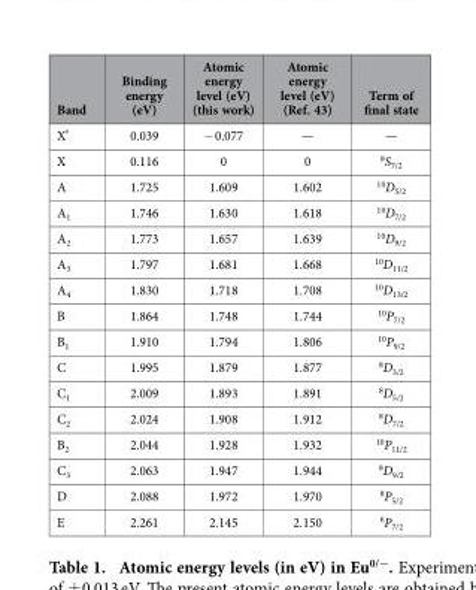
<table><thead><tr><td>Band</td><td>Binding energy (eV)</td><td>Atomic energy level (eV) (this work)</td><td>Atomic energy level (eV) (Ref. 43)</td><td>Term of final state</td></tr></thead><tbody><tr><td>X&#x27;</td><td>0.039</td><td>− 0.077</td><td>—</td><td>—</td></tr><tr><td>X</td><td>0.116</td><td>0</td><td>0</td><td><sup>8</sup>S<sub>7/2</sub></td></tr><tr><td>A</td><td>1.725</td><td>1.609</td><td>1.602</td><td><sup>10</sup>D<sub>5/2</sub></td></tr><tr><td>A<sub>1</sub></td><td>1.746</td><td>1.630</td><td>1.618</td><td><sup>10</sup>D<sub>7/2</sub></td></tr><tr><td>A<sub>2</sub></td><td>1.773</td><td>1.657</td><td>1.639</td><td><sup>10</sup>D<sub>9/2</sub></td></tr><tr><td>A<sub>3</sub></td><td>1.797</td><td>1.681</td><td>1.668</td><td><sup>10</sup>D<sub>11/2</sub></td></tr><tr><td>A<sub>4</sub></td><td>1.830</td><td>1.718</td><td>1.708</td><td><sup>10</sup>D<sub>13/2</sub></td></tr><tr><td>B</td><td>1.864</td><td>1.748</td><td>1.744</td><td><sup>10</sup>P<sub>7/2</sub></td></tr><tr><td>B<sub>1</sub></td><td>1.910</td><td>1.794</td><td>1.806</td><td><sup>10</sup>P<sub>9/2</sub></td></tr><tr><td>C</td><td>1.995</td><td>1.879</td><td>1.877</td><td><sup>8</sup>D<sub>3/2</sub></td></tr><tr><td>C<sub>1</sub></td><td>2.009</td><td>1.893</td><td>1.891</td><td><sup>8</sup>D<sub>5/2</sub></td></tr><tr><td>C<sub>2</sub></td><td>2.024</td><td>1.908</td><td>1.912</td><td><sup>8</sup>D<sub>7/2</sub></td></tr><tr><td>B<sub>2</sub></td><td>2.044</td><td>1.928</td><td>1.932</td><td><sup>10</sup>P<sub>11/2</sub></td></tr><tr><td>C<sub>3</sub></td><td>2.063</td><td>1.947</td><td>1.944</td><td><sup>8</sup>D<sub>9/2</sub></td></tr><tr><td>D</td><td>2.088</td><td>1.972</td><td>1.970</td><td><sup>8</sup>P<sub>5/2</sub></td></tr><tr><td>E</td><td>2.261</td><td>2.145</td><td>2.150</td><td><sup>6</sup>P<sub>7/2</sub></td></tr></tbody></table>